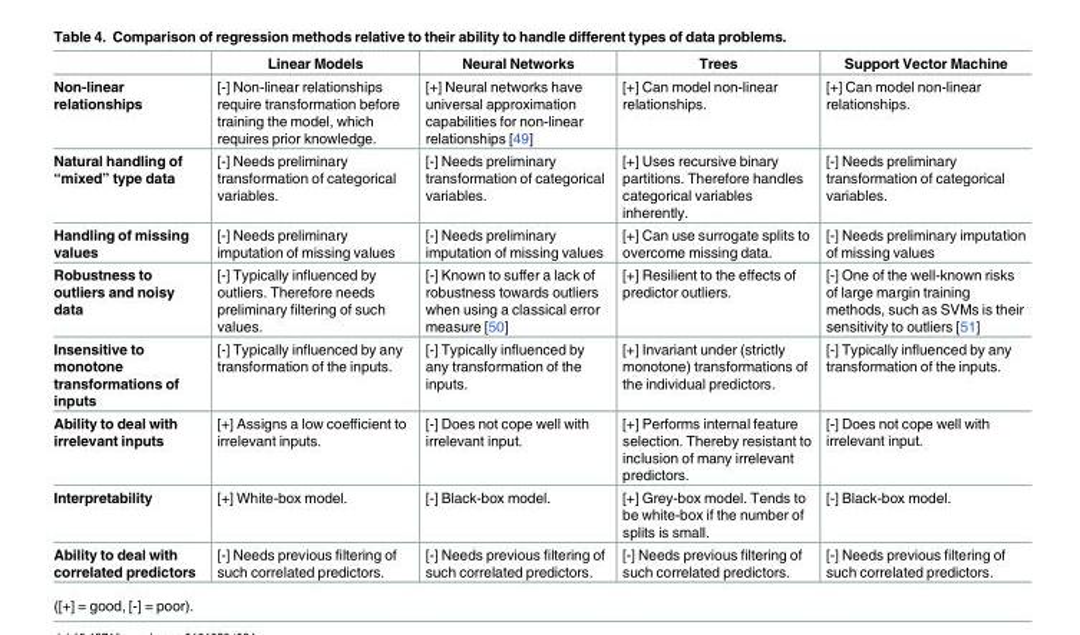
<table><thead><tr><td></td><td>Linear Models</td><td>Neural Networks</td><td>Trees</td><td>Support Vector Machine</td></tr></thead><tbody><tr><td>Non-linear relationships</td><td>[-] Non-linear relationships require transformation before training the model, which requires prior knowledge.</td><td>[+] Neural networks have universal approximation capabilities for non-linear relationships [49]</td><td>[+] Can model non-linear relationships.</td><td>[+] Can model non-linear relationships.</td></tr><tr><td>Natural handling of “mixed” type data</td><td>[-] Needs preliminary transformation of categorical variables.</td><td>[-] Needs preliminary transformation of categorical variables.</td><td>[+] Uses recursive binary partitions. Therefore handles categorical variables inherently.</td><td>[-] Needs preliminary transformation of categorical variables.</td></tr><tr><td>Handling of missing values</td><td>[-] Needs preliminary imputation of missing values</td><td>[-] Needs preliminary imputation of missing values</td><td>[+] Can use surrogate splits to overcome missing data.</td><td>[-] Needs preliminary imputation of missing values</td></tr><tr><td>Robustness to outliers and noisy data</td><td>[-] Typically influenced by outliers. Therefore needs preliminary filtering of such values.</td><td>[-] Known to suffer a lack of robustness towards outliers when using a classical error measure [50]</td><td>[+] Resilient to the effects of predictor outliers.</td><td>[-] One of the well-known risks of large margin training methods, such as SVMs is their sensitivity to outliers [51]</td></tr><tr><td>Insensitive to monotone transformations of inputs</td><td>[-] Typically influenced by any transformation of the inputs.</td><td>[-] Typically influenced by any transformation of the inputs.</td><td>[+] Invariant under (strictly monotone) transformations of the individual predictors.</td><td>[-] Typically influenced by any transformation of the inputs.</td></tr><tr><td>Ability to deal with irrelevant inputs</td><td>[+] Assigns a low coefficient to irrelevant inputs.</td><td>[-] Does not cope well with irrelevant input.</td><td>[+] Performs internal feature selection. Thereby resistant to inclusion of many irrelevant predictors.</td><td>[-] Does not cope well with irrelevant input.</td></tr><tr><td>Interpretability</td><td>[+] White-box model.</td><td>[-] Black-box model.</td><td>[+] Grey-box model. Tends to be white-box if the number of splits is small.</td><td>[-] Black-box model.</td></tr><tr><td>Ability to deal with correlated predictors</td><td>[-] Needs previous filtering of such correlated predictors.</td><td>[-] Needs previous filtering of such correlated predictors.</td><td>[-] Needs previous filtering of such correlated predictors.</td><td>[-] Needs previous filtering of such correlated predictors.</td></tr></tbody></table>